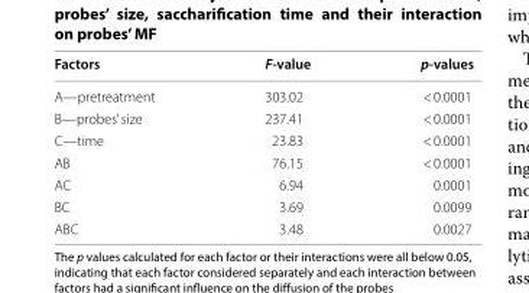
<table><thead><tr><td>Factors</td><td>F-value</td><td>p-values</td></tr></thead><tbody><tr><td>A—pretreatment</td><td>303.02</td><td>&lt; 0.0001</td></tr><tr><td>B—probes’ size</td><td>237.41</td><td>&lt; 0.0001</td></tr><tr><td>C—time</td><td>23.83</td><td>&lt; 0.0001</td></tr><tr><td>AB</td><td>76.15</td><td>&lt; 0.0001</td></tr><tr><td>AC</td><td>6.94</td><td>0.0001</td></tr><tr><td>BC</td><td>3.69</td><td>0.0099</td></tr><tr><td>ABC</td><td>3.48</td><td>0.0027</td></tr></tbody></table>